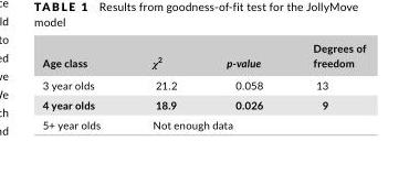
<table><thead><tr><td>Age class</td><td>χ<sup>2</sup></td><td>p-value</td><td>Degrees of freedom</td></tr></thead><tbody><tr><td>3 year olds</td><td>21.2</td><td>0.058</td><td>13</td></tr><tr><td>4 year olds</td><td>18.9</td><td>0.026</td><td>9</td></tr><tr><td>5+ year olds</td><td colspan="2">Not enough data</td><td></td></tr></tbody></table>